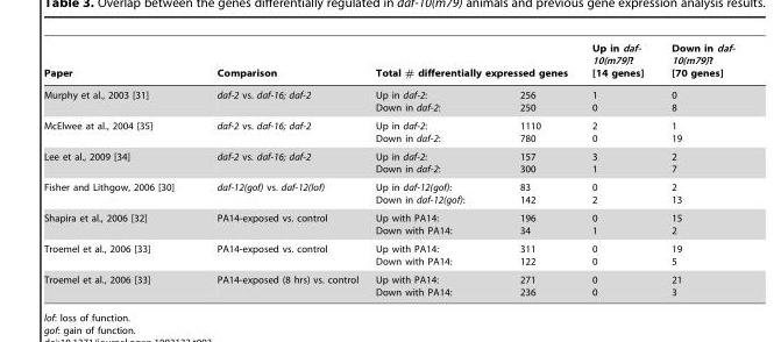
<table><thead><tr><td rowspan="2">Paper Murphy et al., 2003 [31]</td><td rowspan="2">Comparison daf-2 vs. daf-16; daf-2</td><td colspan="2">Total # differentially expressed genes</td><td rowspan="2">Up in daf- 10(m79)? [14 genes] 1 0</td><td rowspan="2">Down in daf- 10(m79)? [70 genes] 0 8</td></tr><tr><td>Up in daf-2: Down in daf-2:</td><td>256 250</td></tr></thead><tbody><tr><td>McElwee at al., 2004 [35]</td><td>daf-2 vs. daf-16; daf-2</td><td>Up in daf-2: Down in daf-2:</td><td>1110 780</td><td>2 0</td><td>1 19</td></tr><tr><td>Lee et al., 2009 [34]</td><td>daf-2 vs. daf-16; daf-2</td><td>Up in daf-2: Down in daf-2:</td><td>157 300</td><td>3 1</td><td>2 7</td></tr><tr><td>Fisher and Lithgow, 2006 [30]</td><td>daf-12(gof) vs. daf-12(lof)</td><td>Up in daf-12(gof): Down in daf-12(gof):</td><td>83 142</td><td>0 2</td><td>2 13</td></tr><tr><td>Shapira et al., 2006 [32]</td><td>PA14-exposed vs. control</td><td>Up with PA14: Down with PA14:</td><td>196 34</td><td>0 1</td><td>15 2</td></tr><tr><td>Troemel et al., 2006 [33]</td><td>PA14-exposed vs. control</td><td>Up with PA14: Down with PA14:</td><td>311 122</td><td>0 0</td><td>19 5</td></tr><tr><td>Troemel et al., 2006 [33]</td><td>PA14-exposed (8 hrs) vs. control</td><td>Up with PA14: Down with PA14:</td><td>271 236</td><td>0 0</td><td>21 3</td></tr></tbody></table>